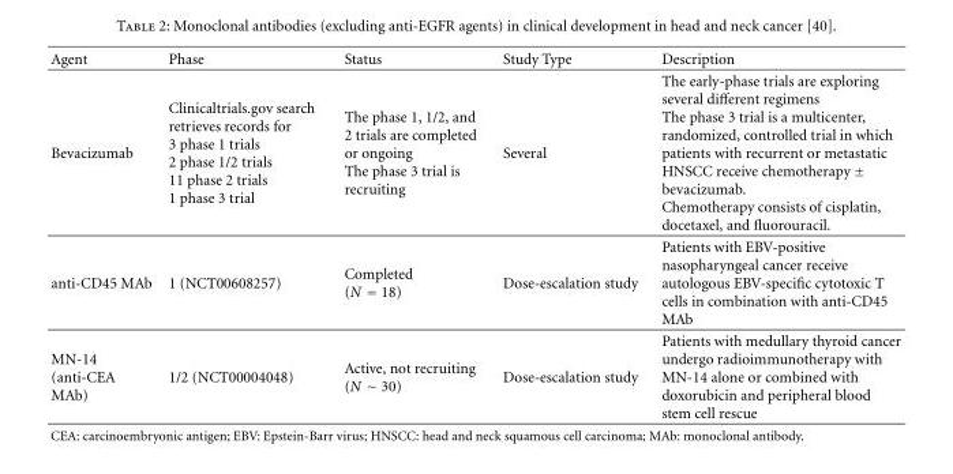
<table><thead><tr><td>Agent</td><td>Phase</td><td>Status</td><td>Study Type</td><td>Description</td></tr></thead><tbody><tr><td>Bevacizumab</td><td>Clinicaltrials.gov search retrieves records for 3 phase 1 trials 2 phase 1/2 trials 11 phase 2 trials 1 phase 3 trial</td><td>The phase 1, 1/2, and 2 trials are completed or ongoing The phase 3 trial is recruiting</td><td>Several</td><td>The early-phase trials are exploring several different regimens The phase 3 trial is a multicenter, randomized, controlled trial in which patients with recurrent or metastatic HNSCC receive chemotherapy ± bevacizumab. Chemotherapy consists of cisplatin, docetaxel, and fluorouracil.</td></tr><tr><td>anti-CD45 MAb</td><td>1 (NCT00608257)</td><td>Completed (N = 18)</td><td>Dose-escalation study</td><td>Patients with EBV-positive nasopharyngeal cancer receive autologous EBV-specific cytotoxic T cells in combination with anti-CD45 MAb</td></tr><tr><td>MN-14 (anti-CEA MAb)</td><td>1/2 (NCT00004048)</td><td>Active, not recruiting (N ∼ 30)</td><td>Dose-escalation study</td><td>Patients with medullary thyroid cancer undergo radioimmunotherapy with MN-14 alone or combined with doxorubicin and peripheral blood stem cell rescue</td></tr></tbody></table>